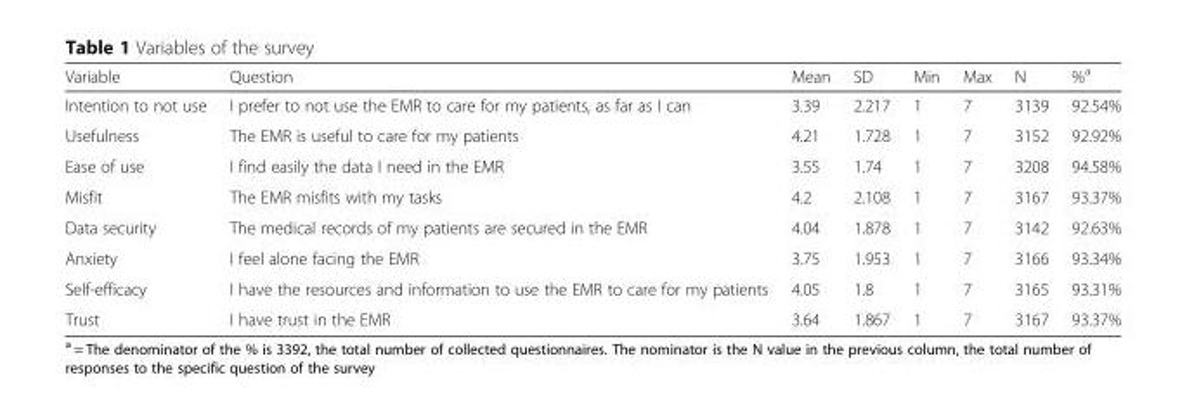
<table><thead><tr><td>Variable</td><td>Question</td><td>Mean</td><td>SD</td><td>Min</td><td>Max</td><td>N</td><td>%<sup>a</sup></td></tr></thead><tbody><tr><td>Intention to not use</td><td>I prefer to not use the EMR to care for my patients, as far as I can</td><td>3.39</td><td>2.217</td><td>1</td><td>7</td><td>3139</td><td>92.54%</td></tr><tr><td>Usefulness</td><td>The EMR is useful to care for my patients</td><td>4.21</td><td>1.728</td><td>1</td><td>7</td><td>3152</td><td>92.92%</td></tr><tr><td>Ease of use</td><td>I find easily the data I need in the EMR</td><td>3.55</td><td>1.74</td><td>1</td><td>7</td><td>3208</td><td>94.58%</td></tr><tr><td>Misfit</td><td>The EMR misfits with my tasks</td><td>4.2</td><td>2.108</td><td>1</td><td>7</td><td>3167</td><td>93.37%</td></tr><tr><td>Data security</td><td>The medical records of my patients are secured in the EMR</td><td>4.04</td><td>1.878</td><td>1</td><td>7</td><td>3142</td><td>92.63%</td></tr><tr><td>Anxiety</td><td>I feel alone facing the EMR</td><td>3.75</td><td>1.953</td><td>1</td><td>7</td><td>3166</td><td>93.34%</td></tr><tr><td>Self-efficacy</td><td>I have the resources and information to use the EMR to care for my patients</td><td>4.05</td><td>1.8</td><td>1</td><td>7</td><td>3165</td><td>93.31%</td></tr><tr><td>Trust</td><td>I have trust in the EMR</td><td>3.64</td><td>1.867</td><td>1</td><td>7</td><td>3167</td><td>93.37%</td></tr></tbody></table>